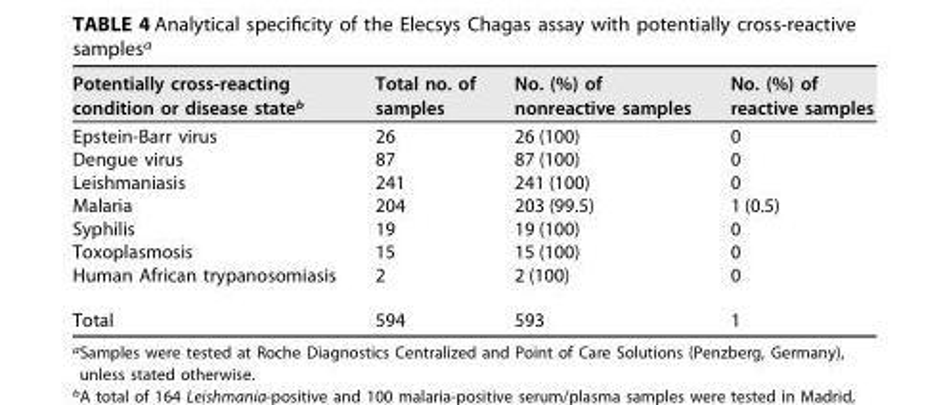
<table><thead><tr><td>Potentially cross-reacting condition or disease state<sup>b</sup></td><td>Total no. of samples</td><td>No. (%) of nonreactive samples</td><td>No. (%) of reactive samples</td></tr></thead><tbody><tr><td>Epstein-Barr virus</td><td>26</td><td>26 (100)</td><td>0</td></tr><tr><td>Dengue virus</td><td>87</td><td>87 (100)</td><td>0</td></tr><tr><td>Leishmaniasis</td><td>241</td><td>241 (100)</td><td>0</td></tr><tr><td>Malaria</td><td>204</td><td>203 (99.5)</td><td>1 (0.5)</td></tr><tr><td>Syphilis</td><td>19</td><td>19 (100)</td><td>0</td></tr><tr><td>Toxoplasmosis</td><td>15</td><td>15 (100)</td><td>0</td></tr><tr><td>Human African trypanosomiasis</td><td>2</td><td>2 (100)</td><td>0</td></tr><tr><td>Total</td><td>594</td><td>593</td><td>1</td></tr></tbody></table>